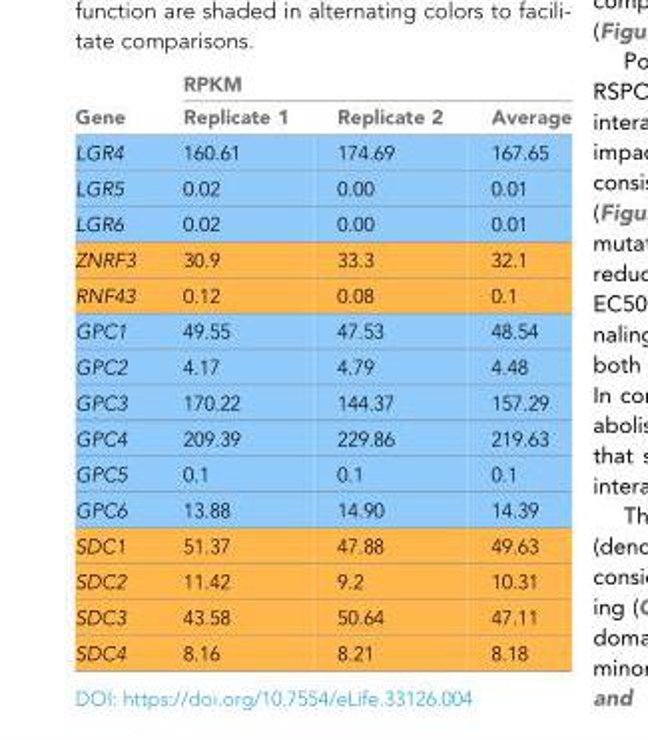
<table><thead><tr><td rowspan="2">Gene</td><td colspan="3">RPKM</td></tr><tr><td>Replicate 1</td><td>Replicate 2</td><td>Average</td></tr></thead><tbody><tr><td>LGR4</td><td>160.61</td><td>174.69</td><td>167.65</td></tr><tr><td>LGR5</td><td>0.02</td><td>0.00</td><td>0.01</td></tr><tr><td>LGR6</td><td>0.02</td><td>0.00</td><td>0.01</td></tr><tr><td>ZNRF3</td><td>30.9</td><td>33.3</td><td>32.1</td></tr><tr><td>RNF43</td><td>0.12</td><td>0.08</td><td>0.1</td></tr><tr><td>GPC1</td><td>49.55</td><td>47.53</td><td>48.54</td></tr><tr><td>GPC2</td><td>4.17</td><td>4.79</td><td>4.48</td></tr><tr><td>GPC3</td><td>170.22</td><td>144.37</td><td>157.29</td></tr><tr><td>GPC4</td><td>209.39</td><td>229.86</td><td>219.63</td></tr><tr><td>GPC5</td><td>0.1</td><td>0.1</td><td>0.1</td></tr><tr><td>GPC6</td><td>13.88</td><td>14.90</td><td>14.39</td></tr><tr><td>SDC1</td><td>51.37</td><td>47.88</td><td>49.63</td></tr><tr><td>SDC2</td><td>11.42</td><td>9.2</td><td>10.31</td></tr><tr><td>SDC3</td><td>43.58</td><td>50.64</td><td>47.11</td></tr><tr><td>SDC4</td><td>8.16</td><td>8.21</td><td>8.18</td></tr></tbody></table>